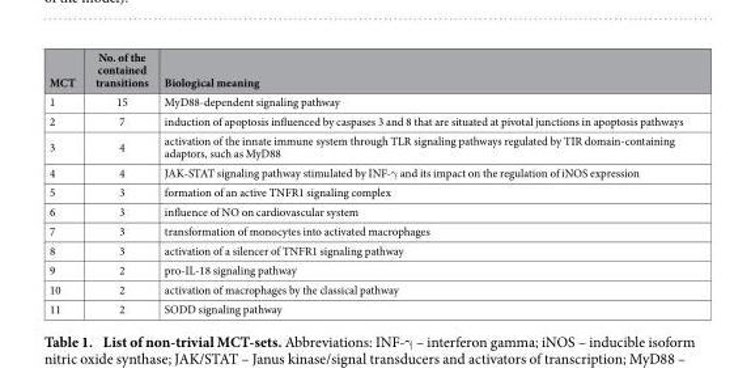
<table><thead><tr><td>MCT</td><td>No. of the contained transitions</td><td>Biological meaning</td></tr></thead><tbody><tr><td>1</td><td>15</td><td>MyD88-dependent signaling pathway</td></tr><tr><td>2</td><td>7</td><td>induction of apoptosis influenced by caspases 3 and 8 that are situated at pivotal junctions in apoptosis pathways</td></tr><tr><td>3</td><td>4</td><td>activation of the innate immune system through TLR signaling pathways regulated by TIR domain-containing adaptors, such as MyD88</td></tr><tr><td>4</td><td>4</td><td>JAK-STAT signaling pathway stimulated by INF-γ and its impact on the regulation of iNOS expression</td></tr><tr><td>5</td><td>3</td><td>formation of an active TNFR1 signaling complex</td></tr><tr><td>6</td><td>3</td><td>influence of NO on cardiovascular system</td></tr><tr><td>7</td><td>3</td><td>transformation of monocytes into activated macrophages</td></tr><tr><td>8</td><td>3</td><td>activation of a silencer of TNFR1 signaling pathway</td></tr><tr><td>9</td><td>2</td><td>pro-IL-18 signaling pathway</td></tr><tr><td>10</td><td>2</td><td>activation of macrophages by the classical pathway</td></tr><tr><td>11</td><td>2</td><td>SODD signaling pathway</td></tr></tbody></table>